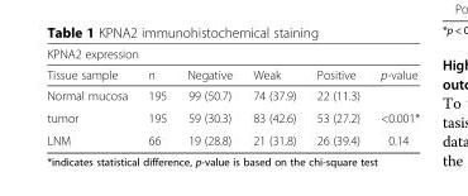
<table><thead><tr><td colspan="6">KPNA2 expression</td></tr><tr><td>Tissue sample</td><td>n</td><td>Negative</td><td>Weak</td><td>Positive</td><td>p-value</td></tr></thead><tbody><tr><td>Normal mucosa</td><td>195</td><td>99 (50.7)</td><td>74 (37.9)</td><td>22 (11.3)</td><td></td></tr><tr><td>tumor</td><td>195</td><td>59 (30.3)</td><td>83 (42.6)</td><td>53 (27.2)</td><td>&lt;0.001*</td></tr><tr><td>LNM</td><td>66</td><td>19 (28.8)</td><td>21 (31.8)</td><td>26 (39.4)</td><td>0.14</td></tr></tbody></table>